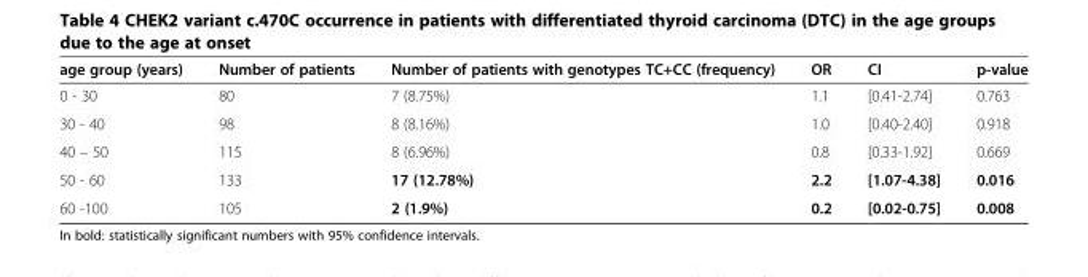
<table><thead><tr><td>age group (years)</td><td>Number of patients</td><td>Number of patients with genotypes TC+CC (frequency)</td><td>OR</td><td>CI</td><td>p-value</td></tr></thead><tbody><tr><td>0 - 30</td><td>80</td><td>7 (8.75%)</td><td>1.1</td><td>[0.41-2.74]</td><td>0.763</td></tr><tr><td>30 - 40</td><td>98</td><td>8 (8.16%)</td><td>1.0</td><td>[0.40-2.40]</td><td>0.918</td></tr><tr><td>40 – 50</td><td>115</td><td>8 (6.96%)</td><td>0.8</td><td>[0.33-1.92]</td><td>0.669</td></tr><tr><td>50 - 60</td><td>133</td><td>17 (12.78%)</td><td>2.2</td><td>[1.07-4.38]</td><td>0.016</td></tr><tr><td>60 -100</td><td>105</td><td>2 (1.9%)</td><td>0.2</td><td>[0.02-0.75]</td><td>0.008</td></tr></tbody></table>